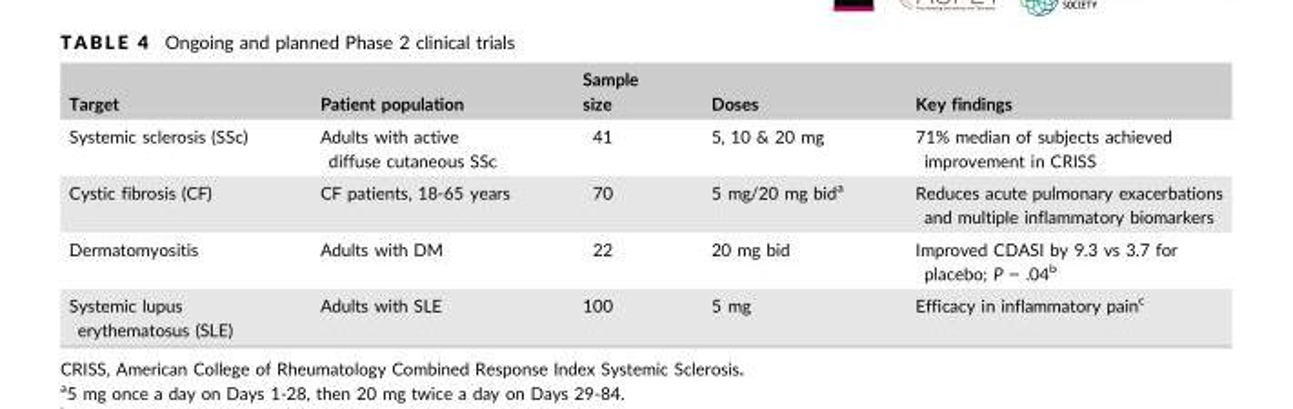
<table><thead><tr><td>Target</td><td>Patient population</td><td>Sample size</td><td>Doses</td><td>Key findings</td></tr></thead><tbody><tr><td>Systemic sclerosis (SSc)</td><td>Adults with active diffuse cutaneous SSc</td><td>41</td><td>5, 10 &amp; 20 mg</td><td>71% median of subjects achieved improvement in CRISS</td></tr><tr><td>Cystic fibrosis (CF)</td><td>CF patients, 18-65 years</td><td>70</td><td>5 mg/20 mg bid<sup>a</sup></td><td>Reduces acute pulmonary exacerbations and multiple inflammatory biomarkers</td></tr><tr><td>Dermatomyositis</td><td>Adults with DM</td><td>22</td><td>20 mg bid</td><td>Improved CDASI by 9.3 vs 3.7 for placebo; P = .04<sup>b</sup></td></tr><tr><td>Systemic lupus erythematosus (SLE)</td><td>Adults with SLE</td><td>100</td><td>5 mg</td><td>Efficacy in inflammatory pain<sup>c</sup></td></tr></tbody></table>